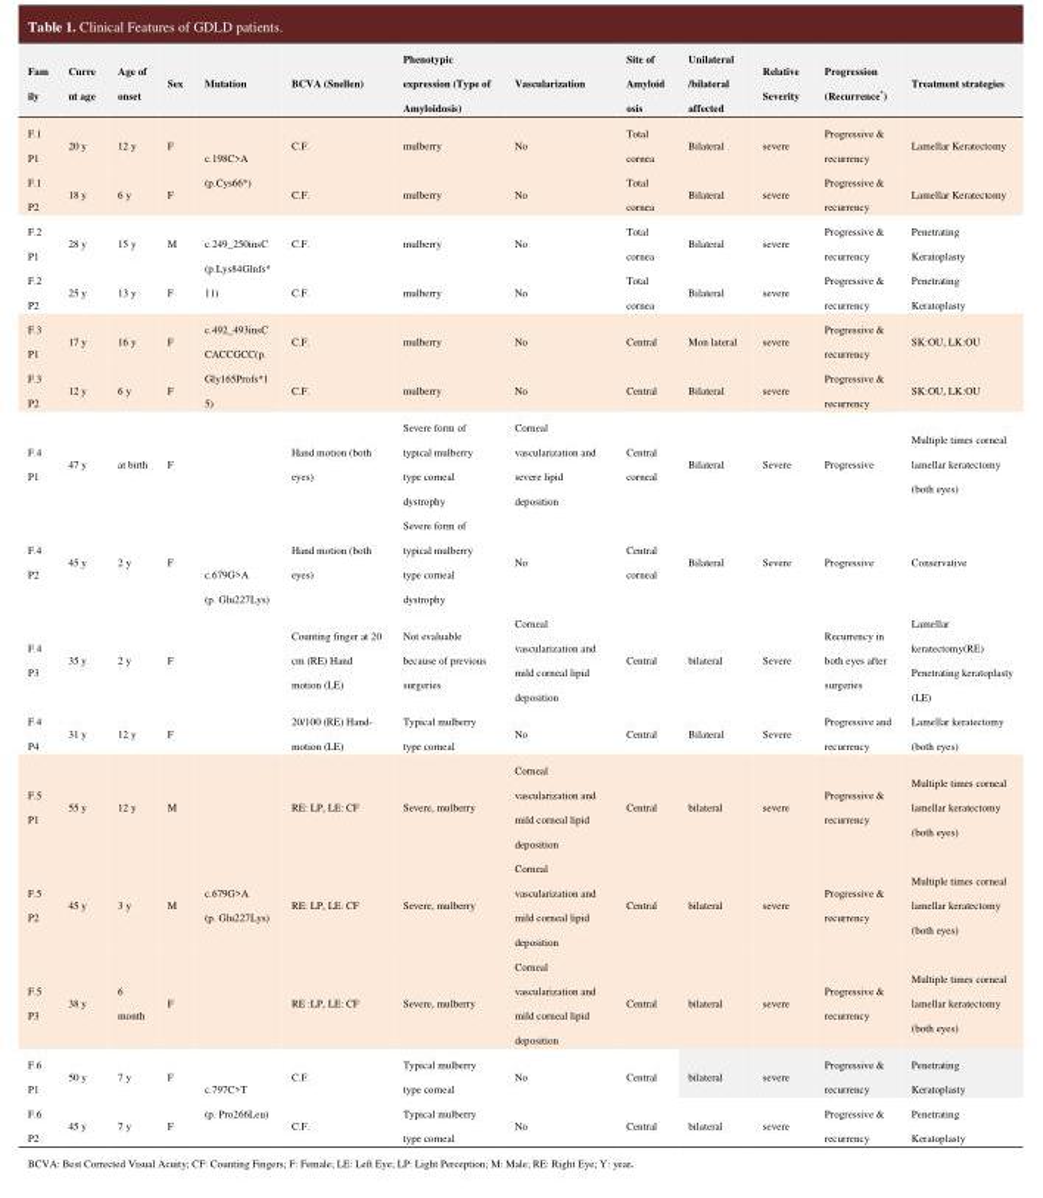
<table><thead><tr><td>Fam ily</td><td>Curre nt age</td><td>Age of onset</td><td>Sex</td><td>Mutation</td><td>BCVA (Snellen)</td><td>Phenotypic expression (Type of Amyloidosis)</td><td>Vascularization</td><td>Site of Amyloid osis</td><td>Unilateral /bilateral affected</td><td>Relative Severity</td><td>Progression (Recurrence*)</td><td>Treatment strategies</td></tr></thead><tbody><tr><td>F.1 P1</td><td>20 y</td><td>12 y</td><td>F</td><td rowspan="2">c.198C&gt;A (p.Cys66*)</td><td>C.F.</td><td>mulberry</td><td>No</td><td>Total cornea</td><td>Bilateral</td><td>severe</td><td>Progressive &amp; recurrency</td><td>Lamellar Keratectomy</td></tr><tr><td>F.1 P2</td><td>18 y</td><td>6 y</td><td>F</td><td>C.F.</td><td>mulberry</td><td>No</td><td>Total cornea</td><td>Bilateral</td><td>severe</td><td>Progressive &amp; recurrency</td><td>Lamellar Keratectomy</td></tr><tr><td>F.2 P1</td><td>28 y</td><td>15 y</td><td>M</td><td rowspan="2">c.249_250insC (p.Lys84Glnfs* 11)</td><td>C.F.</td><td>mulberry</td><td>No</td><td>Total cornea</td><td>Bilateral</td><td>severe</td><td>Progressive &amp; recurrency</td><td>Penetrating Keratoplasty</td></tr><tr><td>F.2 P2</td><td>25 y</td><td>13 y</td><td>F</td><td>C.F.</td><td>mulberry</td><td>No</td><td>Total cornea</td><td>Bilateral</td><td>severe</td><td>Progressive &amp; recurrency</td><td>Penetrating Keratoplasty</td></tr><tr><td>F.3 P1</td><td>17 y</td><td>16 y</td><td>F</td><td rowspan="2">c.492_493insC CACCGCC(p. Gly165Profs*1 5)</td><td>C.F.</td><td>mulberry</td><td>No</td><td>Central</td><td>Mon lateral</td><td>severe</td><td>Progressive &amp; recurrency</td><td>SK:OU, LK:OU</td></tr><tr><td>F.3 P2</td><td>12 y</td><td>6 y</td><td>F</td><td>C.F.</td><td>mulberry</td><td>No</td><td>Central</td><td>Bilateral</td><td>severe</td><td>Progressive &amp; recurrency</td><td>SK:OU, LK:OU</td></tr><tr><td>F.4 P1</td><td>47 y</td><td>at birth</td><td>F</td><td rowspan="4">c.679G&gt;A (p. Glu227Lys)</td><td>Hand motion (both eyes)</td><td>Severe form of typical mulberry type corneal dystrophy</td><td>Corneal vascularization and severe lipid deposition</td><td>Central corneal</td><td>Bilateral</td><td>Severe</td><td>Progressive</td><td>Multiple times corneal lamellar keratectomy (both eyes)</td></tr><tr><td>F.4 P2</td><td>45 y</td><td>2 y</td><td>F</td><td>Hand motion (both eyes)</td><td>Severe form of typical mulberry type corneal dystrophy</td><td>No</td><td>Central corneal</td><td>Bilateral</td><td>Severe</td><td>Progressive</td><td>Conservative</td></tr><tr><td>F.4 P3</td><td>35 y</td><td>2 y</td><td>F</td><td>Counting finger at 20 cm (RE) Hand motion (LE)</td><td>Not evaluable because of previous surgeries</td><td>Corneal vascularization and mild corneal lipid deposition</td><td>Central</td><td>bilateral</td><td>Severe</td><td>Recurrency in both eyes after surgeries</td><td>Lamellar keratectomy(RE) Penetrating keratoplasty (LE)</td></tr><tr><td>F.4 P4</td><td>31 y</td><td>12 y</td><td>F</td><td>20/100 (RE) Hand- motion (LE)</td><td>Typical mulberry type corneal</td><td>No</td><td>Central</td><td>Bilateral</td><td>Severe</td><td>Progressive and recurrency</td><td>Lamellar keratectomy (both eyes)</td></tr><tr><td>F.5 P1</td><td>55 y</td><td>12 y</td><td>M</td><td rowspan="3">c.679G&gt;A (p. Glu227Lys)</td><td>RE: LP, LE: CF</td><td>Severe, mulberry</td><td>Corneal vascularization and mild corneal lipid deposition</td><td>Central</td><td>bilateral</td><td>severe</td><td>Progressive &amp; recurrency</td><td>Multiple times corneal lamellar keratectomy (both eyes)</td></tr><tr><td>F.5 P2</td><td>45 y</td><td>3 y</td><td>M</td><td>RE: LP, LE: CF</td><td>Severe, mulberry</td><td>Corneal vascularization and mild corneal lipid deposition</td><td>Central</td><td>bilateral</td><td>severe</td><td>Progressive &amp; recurrency</td><td>Multiple times corneal lamellar keratectomy (both eyes)</td></tr><tr><td>F.5 P3</td><td>38 y</td><td>6 month</td><td>F</td><td>RE :LP, LE: CF</td><td>Severe, mulberry</td><td>Corneal vascularization and mild corneal lipid deposition</td><td>Central</td><td>bilateral</td><td>severe</td><td>Progressive &amp; recurrency</td><td>Multiple times corneal lamellar keratectomy (both eyes)</td></tr><tr><td>F.6 P1</td><td>50 y</td><td>7 y</td><td>F</td><td rowspan="2">c.797C&gt;T (p. Pro266Leu)</td><td>C.F.</td><td>Typical mulberry type corneal</td><td>No</td><td>Central</td><td>bilateral</td><td>severe</td><td>Progressive &amp; recurrency</td><td>Penetrating Keratoplasty</td></tr><tr><td>F.6 P2</td><td>45 y</td><td>7 y</td><td>F</td><td>C.F.</td><td>Typical mulberry type corneal</td><td>No</td><td>Central</td><td>bilateral</td><td>severe</td><td>Progressive &amp; recurrency</td><td>Penetrating Keratoplasty</td></tr></tbody></table>